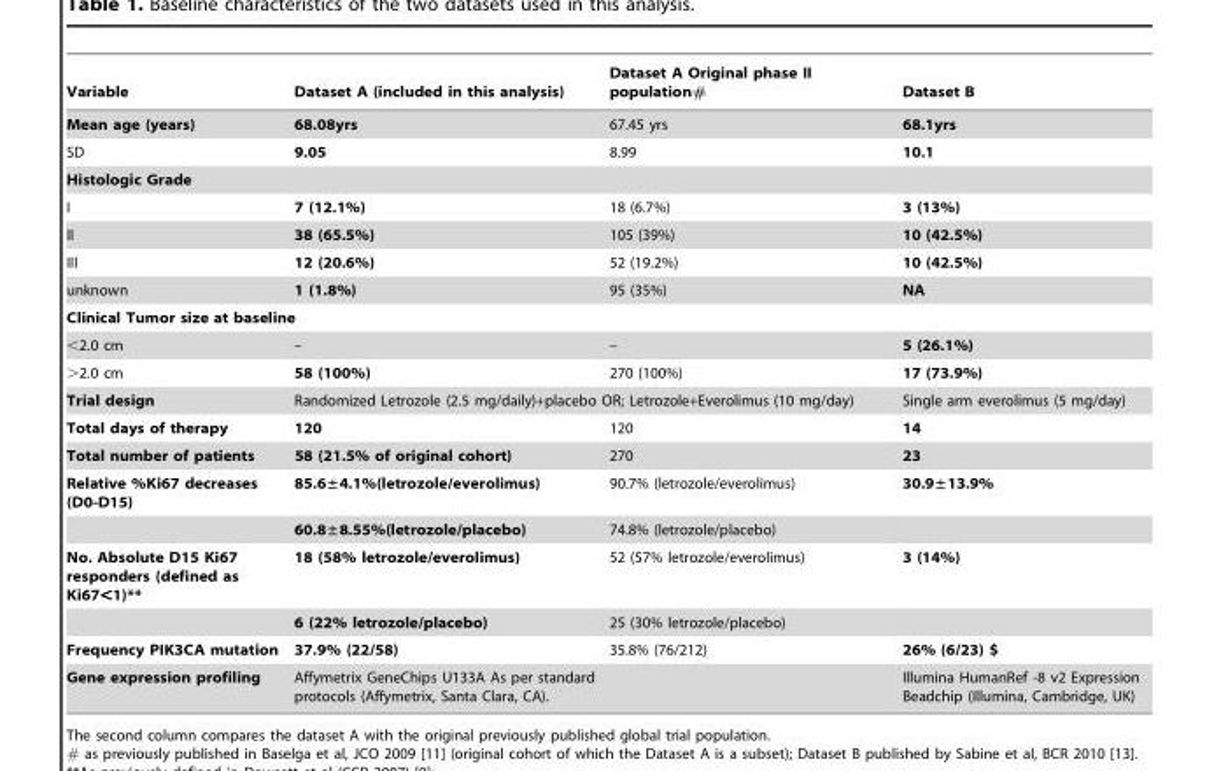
<table><thead><tr><td>Variable</td><td>Dataset A (included in this analysis)</td><td>Dataset A Original phase II population#</td><td>Dataset B</td></tr></thead><tbody><tr><td>Mean age (years)</td><td>68.08yrs</td><td>67.45 yrs</td><td>68.1yrs</td></tr><tr><td>SD</td><td>9.05</td><td>8.99</td><td>10.1</td></tr><tr><td colspan="4">Histologic Grade</td></tr><tr><td>I</td><td>7 (12.1%)</td><td>18 (6.7%)</td><td>3 (13%)</td></tr><tr><td>II</td><td>38 (65.5%)</td><td>105 (39%)</td><td>10 (42.5%)</td></tr><tr><td>III</td><td>12 (20.6%)</td><td>52 (19.2%)</td><td>10 (42.5%)</td></tr><tr><td>unknown</td><td>1 (1.8%)</td><td>95 (35%)</td><td>NA</td></tr><tr><td colspan="4">Clinical Tumor size at baseline</td></tr><tr><td>&lt;2.0 cm</td><td>–</td><td>–</td><td>5 (26.1%)</td></tr><tr><td>&gt;2.0 cm</td><td>58 (100%)</td><td>270 (100%)</td><td>17 (73.9%)</td></tr><tr><td>Trial design</td><td colspan="2">Randomized Letrozole (2.5 mg/daily)+placebo OR; Letrozole+Everolimus (10 mg/day)</td><td>Single arm everolimus (5 mg/day)</td></tr><tr><td>Total days of therapy</td><td>120</td><td>120</td><td>14</td></tr><tr><td>Total number of patients</td><td>58 (21.5% of original cohort)</td><td>270</td><td>23</td></tr><tr><td rowspan="2">Relative %Ki67 decreases (D0-D15)</td><td>85.6±4.1%(letrozole/everolimus)</td><td>90.7% (letrozole/everolimus)</td><td>30.9±13.9%</td></tr><tr><td>60.8±8.55%(letrozole/placebo)</td><td>74.8% (letrozole/placebo)</td><td></td></tr><tr><td rowspan="2">No. Absolute D15 Ki67 responders (defined as Ki67&lt;1)**</td><td>18 (58% letrozole/everolimus)</td><td>52 (57% letrozole/everolimus)</td><td>3 (14%)</td></tr><tr><td>6 (22% letrozole/placebo)</td><td>25 (30% letrozole/placebo)</td><td></td></tr><tr><td>Frequency PIK3CA mutation</td><td>37.9% (22/58)</td><td>35.8% (76/212)</td><td>26% (6/23) $</td></tr><tr><td>Gene expression profiling</td><td>Affymetrix GeneChips U133A As per standard protocols (Affymetrix, Santa Clara, CA).</td><td></td><td>Illumina HumanRef -8 v2 Expression Beadchip (Illumina, Cambridge, UK)</td></tr></tbody></table>